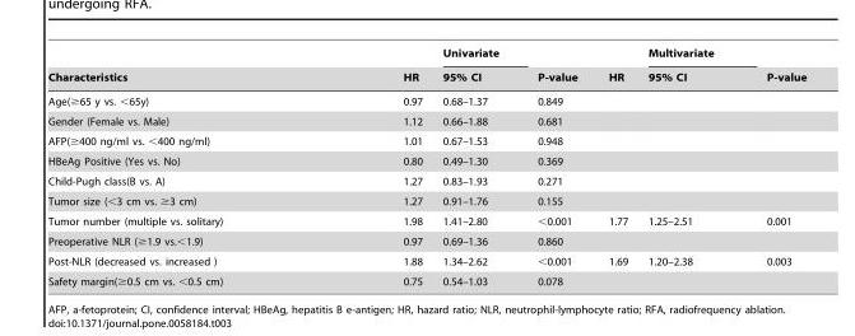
<table><thead><tr><td rowspan="2">Characteristics</td><td rowspan="2">HR</td><td rowspan="2">Univariate 95% CI</td><td rowspan="2">P-value</td><td rowspan="2">HR</td><td rowspan="2">Multivariate 95% CI</td><td rowspan="2">P-value</td></tr><tr></tr></thead><tbody><tr><td>Age(≥65 y vs. &lt;65y)</td><td>0.97</td><td>0.68–1.37</td><td>0.849</td><td></td><td></td><td></td></tr><tr><td>Gender (Female vs. Male)</td><td>1.12</td><td>0.66–1.88</td><td>0.681</td><td></td><td></td><td></td></tr><tr><td>AFP(≥400 ng/ml vs. &lt;400 ng/ml)</td><td>1.01</td><td>0.67–1.53</td><td>0.948</td><td></td><td></td><td></td></tr><tr><td>HBeAg Positive (Yes vs. No)</td><td>0.80</td><td>0.49–1.30</td><td>0.369</td><td></td><td></td><td></td></tr><tr><td>Child-Pugh class(B vs. A)</td><td>1.27</td><td>0.83–1.93</td><td>0.271</td><td></td><td></td><td></td></tr><tr><td>Tumor size (&lt;3 cm vs. ≥3 cm)</td><td>1.27</td><td>0.91–1.76</td><td>0.155</td><td></td><td></td><td></td></tr><tr><td>Tumor number (multiple vs. solitary)</td><td>1.98</td><td>1.41–2.80</td><td>&lt;0.001</td><td>1.77</td><td>1.25–2.51</td><td>0.001</td></tr><tr><td>Preoperative NLR (≥1.9 vs.&lt;1.9)</td><td>0.97</td><td>0.69–1.36</td><td>0.860</td><td></td><td></td><td></td></tr><tr><td>Post-NLR (decreased vs. increased )</td><td>1.88</td><td>1.34–2.62</td><td>&lt;0.001</td><td>1.69</td><td>1.20–2.38</td><td>0.003</td></tr><tr><td>Safety margin(≥0.5 cm vs. &lt;0.5 cm)</td><td>0.75</td><td>0.54–1.03</td><td>0.078</td><td></td><td></td><td></td></tr></tbody></table>